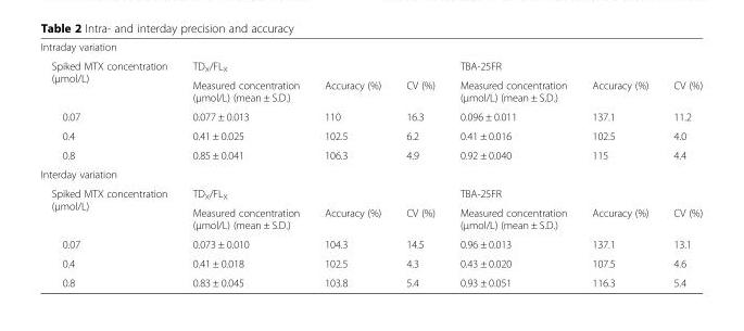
<table><tbody><tr><td colspan="7">Intraday variation</td></tr><tr><td rowspan="2">Spiked MTX concentration (μmol/L)</td><td colspan="3">TD<sub>X</sub>/FL<sub>X</sub></td><td colspan="3">TBA-25FR</td></tr><tr><td>Measured concentration (μmol/L) (mean ± S.D.)</td><td>Accuracy (%)</td><td>CV (%)</td><td>Measured concentration (μmol/L) (mean ± S.D.)</td><td>Accuracy (%)</td><td>CV (%)</td></tr><tr><td>0.07</td><td>0.077 ± 0.013</td><td>110</td><td>16.3</td><td>0.096 ± 0.011</td><td>137.1</td><td>11.2</td></tr><tr><td>0.4</td><td>0.41 ± 0.025</td><td>102.5</td><td>6.2</td><td>0.41 ± 0.016</td><td>102.5</td><td>4.0</td></tr><tr><td>0.8</td><td>0.85 ± 0.041</td><td>106.3</td><td>4.9</td><td>0.92 ± 0.040</td><td>115</td><td>4.4</td></tr><tr><td colspan="7">Interday variation</td></tr><tr><td rowspan="2">Spiked MTX concentration (μmol/L)</td><td colspan="3">TD<sub>X</sub>/FL<sub>X</sub></td><td colspan="3">TBA-25FR</td></tr><tr><td>Measured concentration (μmol/L) (mean ± S.D.)</td><td>Accuracy (%)</td><td>CV (%)</td><td>Measured concentration (μmol/L) (mean ± S.D.)</td><td>Accuracy (%)</td><td>CV (%)</td></tr><tr><td>0.07</td><td>0.073 ± 0.010</td><td>104.3</td><td>14.5</td><td>0.96 ± 0.013</td><td>137.1</td><td>13.1</td></tr><tr><td>0.4</td><td>0.41 ± 0.018</td><td>102.5</td><td>4.3</td><td>0.43 ± 0.020</td><td>107.5</td><td>4.6</td></tr><tr><td>0.8</td><td>0.83 ± 0.045</td><td>103.8</td><td>5.4</td><td>0.93 ± 0.051</td><td>116.3</td><td>5.4</td></tr></tbody></table>